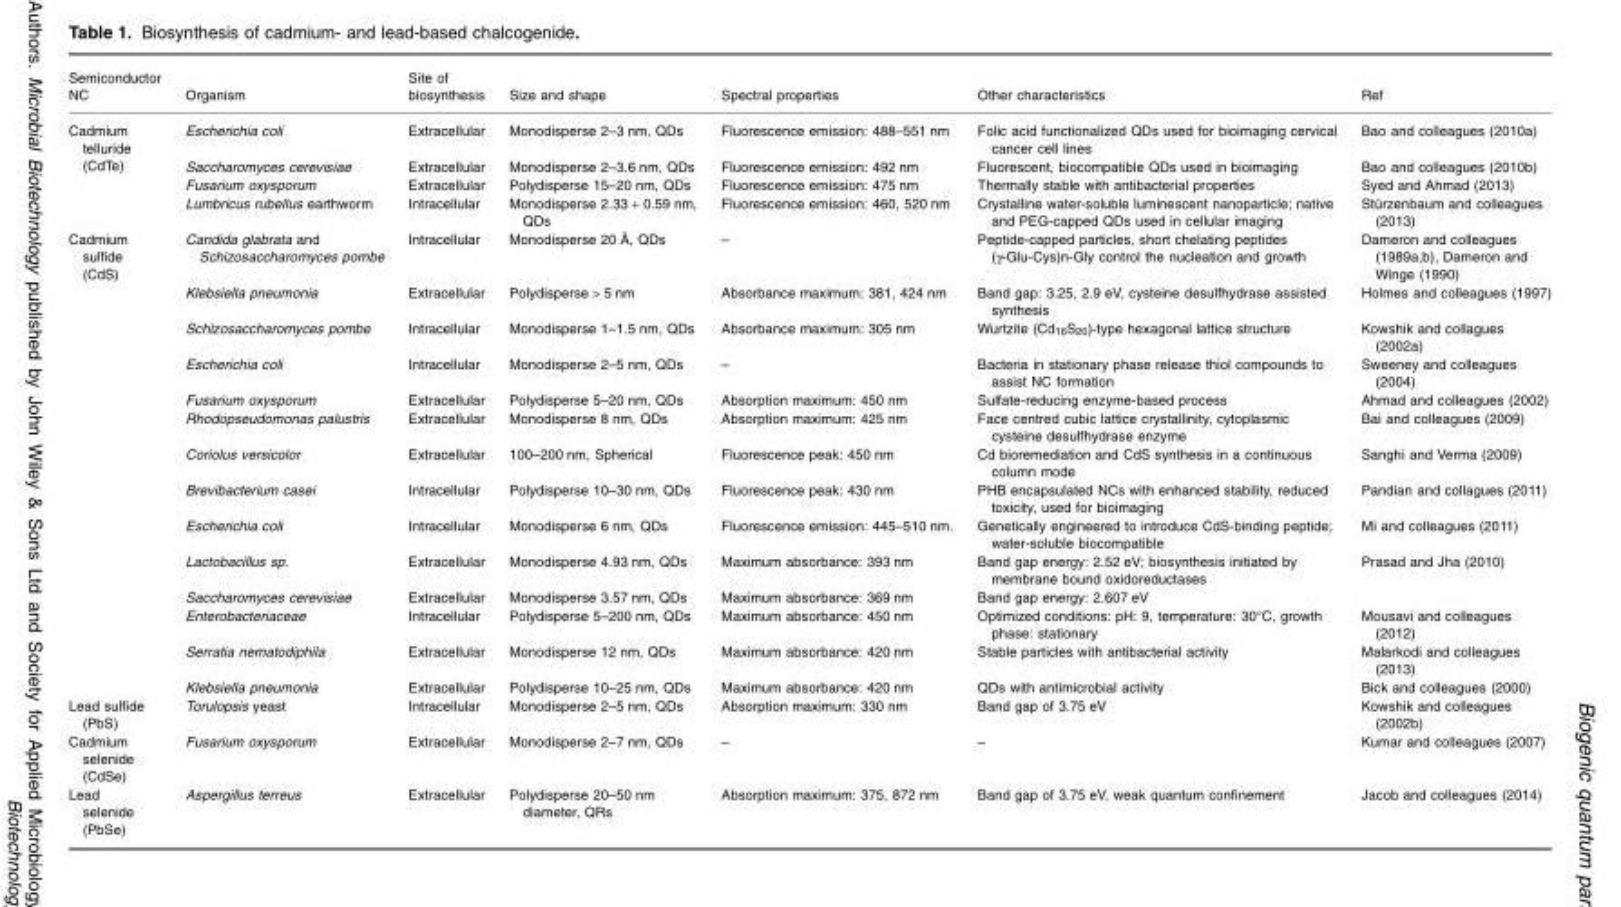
<table><thead><tr><td>Semiconductor NC</td><td>Organism</td><td>Site of biosynthesis</td><td>Size and shape</td><td>Spectral properties</td><td>Other characteristics</td><td>Ref</td></tr></thead><tbody><tr><td rowspan="4">Cadmium telluride (CdTe)</td><td>Escherichia coli</td><td>Extracellular</td><td>Monodisperse 2–3 nm, QDs</td><td>Fluorescence emission: 488–551 nm</td><td>Folic acid functionalized QDs used for bioimaging cervical cancer cell lines</td><td>Bao and colleagues (2010a)</td></tr><tr><td>Saccharomyces cerevisiae</td><td>Extracellular</td><td>Monodisperse 2–3.6 nm, QDs</td><td>Fluorescence emission: 492 nm</td><td>Fluorescent, biocompatible QDs used in bioimaging</td><td>Bao and colleagues (2010b)</td></tr><tr><td>Fusarium oxysporum</td><td>Extracellular</td><td>Polydisperse 15–20 nm, QDs</td><td>Fluorescence emission: 475 nm</td><td>Thermally stable with antibacterial properties</td><td>Syed and Ahmad (2013)</td></tr><tr><td>Lumbricus rubellus earthworm</td><td>Intracellular</td><td>Monodisperse 2.33 + 0.59 nm, QDs</td><td>Fluorescence emission: 460, 520 nm</td><td>Crystalline water-soluble luminescent nanoparticle; native and PEG-capped QDs used in cellular imaging</td><td>Stürzenbaum and colleagues (2013)</td></tr><tr><td rowspan="14">Cadmium sulfide (CdS)</td><td>Candida glabrata and Schizosaccharomyces pombe</td><td>Intracellular</td><td>Monodisperse 20 Å, QDs</td><td>–</td><td>Peptide-capped particles, short chelating peptides (γ-Glu-Cys)n-Gly control the nucleation and growth</td><td>Dameron and colleagues (1989a,b), Dameron and Winge (1990)</td></tr><tr><td>Klebsiella pneumonia</td><td>Extracellular</td><td>Polydisperse &gt; 5 nm</td><td>Absorbance maximum: 381, 424 nm</td><td>Band gap: 3.25, 2.9 eV, cysteine desulfhydrase assisted synthesis</td><td>Holmes and colleagues (1997)</td></tr><tr><td>Schizosaccharomyces pombe</td><td>Intracellular</td><td>Monodisperse 1–1.5 nm, QDs</td><td>Absorbance maximum: 305 nm</td><td>Wurtzite (Cd<sub>16</sub>S<sub>20</sub>)-type hexagonal lattice structure</td><td>Kowshik and collagues (2002a)</td></tr><tr><td>Escherichia coli</td><td>Intracellular</td><td>Monodisperse 2–5 nm, QDs</td><td>–</td><td>Bacteria in stationary phase release thiol compounds to assist NC formation</td><td>Sweeney and colleagues (2004)</td></tr><tr><td>Fusarium oxysporum</td><td>Extracellular</td><td>Polydisperse 5–20 nm, QDs</td><td>Absorption maximum: 450 nm</td><td>Sulfate-reducing enzyme-based process</td><td>Ahmad and colleagues (2002)</td></tr><tr><td>Rhodopseudomonas palustris</td><td>Extracellular</td><td>Monodisperse 8 nm, QDs</td><td>Absorption maximum: 425 nm</td><td>Face centred cubic lattice crystallinity, cytoplasmic cysteine desulfhydrase enzyme</td><td>Bai and colleagues (2009)</td></tr><tr><td>Coriolus versicolor</td><td>Extracellular</td><td>100–200 nm, Spherical</td><td>Fluorescence peak: 450 nm</td><td>Cd bioremediation and CdS synthesis in a continuous column mode</td><td>Sanghi and Verma (2009)</td></tr><tr><td>Brevibacterium casei</td><td>Intracellular</td><td>Polydisperse 10–30 nm, QDs</td><td>Fluorescence peak: 430 nm</td><td>PHB encapsulated NCs with enhanced stability, reduced toxicity, used for bioimaging</td><td>Pandian and collagues (2011)</td></tr><tr><td>Escherichia coli</td><td>Intracellular</td><td>Monodisperse 6 nm, QDs</td><td>Fluorescence emission: 445–510 nm.</td><td>Genetically engineered to introduce CdS-binding peptide; water-soluble biocompatible</td><td>Mi and colleagues (2011)</td></tr><tr><td>Lactobacillus sp.</td><td>Extracellular</td><td>Monodisperse 4.93 nm, QDs</td><td>Maximum absorbance: 393 nm</td><td>Band gap energy: 2.52 eV; biosynthesis initiated by membrane bound oxidoreductases</td><td rowspan="2">Prasad and Jha (2010)</td></tr><tr><td>Saccharomyces cerevisiae</td><td>Extracellular</td><td>Monodisperse 3.57 nm, QDs</td><td>Maximum absorbance: 369 nm</td><td>Band gap energy: 2.607 eV</td></tr><tr><td>Enterobacteriaceae</td><td>Intracellular</td><td>Polydisperse 5–200 nm, QDs</td><td>Maximum absorbance: 450 nm</td><td>Optimized conditions: pH: 9, temperature: 30°C, growth phase: stationary</td><td>Mousavi and colleagues (2012)</td></tr><tr><td>Serratia nematodiphila</td><td>Extracellular</td><td>Monodisperse 12 nm, QDs</td><td>Maximum absorbance: 420 nm</td><td>Stable particles with antibacterial activity</td><td>Malarkodi and colleagues (2013)</td></tr><tr><td>Klebsiella pneumonia</td><td>Extracellular</td><td>Polydisperse 10–25 nm, QDs</td><td>Maximum absorbance: 420 nm</td><td>QDs with antimicrobial activity</td><td>Bick and colleagues (2000)</td></tr><tr><td>Lead sulfide (PbS)</td><td>Torulopsis yeast</td><td>Intracellular</td><td>Monodisperse 2–5 nm, QDs</td><td>Absorption maximum: 330 nm</td><td>Band gap of 3.75 eV</td><td>Kowshik and colleagues (2002b)</td></tr><tr><td>Cadmium selenide (CdSe)</td><td>Fusarium oxysporum</td><td>Extracellular</td><td>Monodisperse 2–7 nm, QDs</td><td>–</td><td>–</td><td>Kumar and colleagues (2007)</td></tr><tr><td>Lead selenide (PbSe)</td><td>Aspergillus terreus</td><td>Extracellular</td><td>Polydisperse 20–50 nm diameter, QRs</td><td>Absorption maximum: 375, 872 nm</td><td>Band gap of 3.75 eV, weak quantum confinement</td><td>Jacob and colleagues (2014)</td></tr></tbody></table>